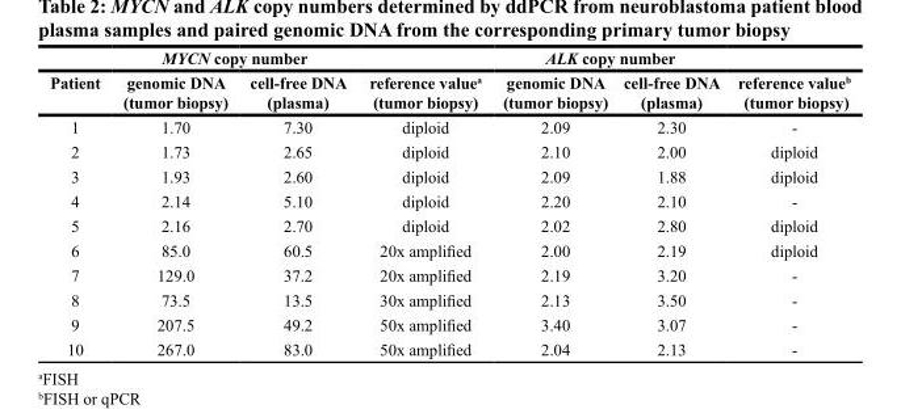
<table><thead><tr><td rowspan="2">Patient</td><td colspan="2">MYCN copy number</td><td rowspan="2">reference value<sup>a</sup> (tumor biopsy)</td><td colspan="2">ALK copy number</td><td rowspan="2">reference value<sup>b</sup> (tumor biopsy)</td></tr><tr><td>genomic DNA (tumor biopsy)</td><td>cell-free DNA (plasma)</td><td>genomic DNA (tumor biopsy)</td><td>cell-free DNA (plasma)</td></tr></thead><tbody><tr><td>1</td><td>1.70</td><td>7.30</td><td>diploid</td><td>2.09</td><td>2.30</td><td>-</td></tr><tr><td>2</td><td>1.73</td><td>2.65</td><td>diploid</td><td>2.10</td><td>2.00</td><td>diploid</td></tr><tr><td>3</td><td>1.93</td><td>2.60</td><td>diploid</td><td>2.09</td><td>1.88</td><td>diploid</td></tr><tr><td>4</td><td>2.14</td><td>5.10</td><td>diploid</td><td>2.20</td><td>2.10</td><td>-</td></tr><tr><td>5</td><td>2.16</td><td>2.70</td><td>diploid</td><td>2.02</td><td>2.80</td><td>diploid</td></tr><tr><td>6</td><td>85.0</td><td>60.5</td><td>20x amplified</td><td>2.00</td><td>2.19</td><td>diploid</td></tr><tr><td>7</td><td>129.0</td><td>37.2</td><td>20x amplified</td><td>2.19</td><td>3.20</td><td>-</td></tr><tr><td>8</td><td>73.5</td><td>13.5</td><td>30x amplified</td><td>2.13</td><td>3.50</td><td>-</td></tr><tr><td>9</td><td>207.5</td><td>49.2</td><td>50x amplified</td><td>3.40</td><td>3.07</td><td>-</td></tr><tr><td>10</td><td>267.0</td><td>83.0</td><td>50x amplified</td><td>2.04</td><td>2.13</td><td>-</td></tr></tbody></table>